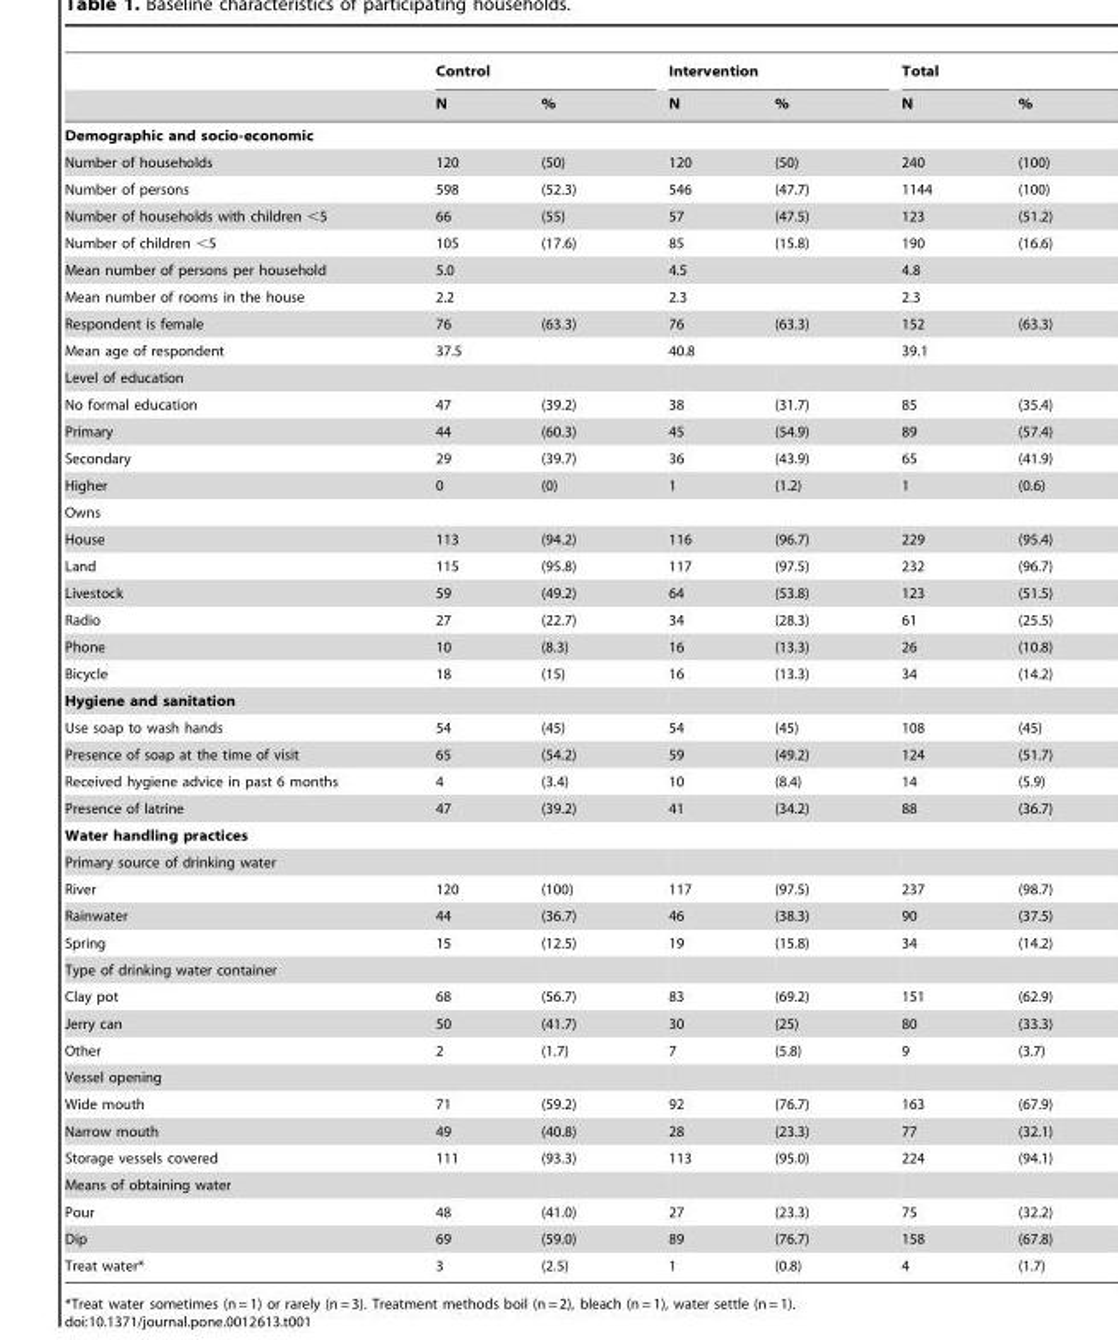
<table><thead><tr><td rowspan="2"></td><td colspan="2">Control</td><td colspan="2">Intervention</td><td colspan="2">Total</td></tr><tr><td>N</td><td>%</td><td>N</td><td>%</td><td>N</td><td>%</td></tr></thead><tbody><tr><td colspan="7">Demographic and socio-economic</td></tr><tr><td>Number of households</td><td>120</td><td>(50)</td><td>120</td><td>(50)</td><td>240</td><td>(100)</td></tr><tr><td>Number of persons</td><td>598</td><td>(52.3)</td><td>546</td><td>(47.7)</td><td>1144</td><td>(100)</td></tr><tr><td>Number of households with children &lt;5</td><td>66</td><td>(55)</td><td>57</td><td>(47.5)</td><td>123</td><td>(51.2)</td></tr><tr><td>Number of children &lt;5</td><td>105</td><td>(17.6)</td><td>85</td><td>(15.8)</td><td>190</td><td>(16.6)</td></tr><tr><td>Mean number of persons per household</td><td colspan="2">5.0</td><td colspan="2">4.5</td><td colspan="2">4.8</td></tr><tr><td>Mean number of rooms in the house</td><td colspan="2">2.2</td><td colspan="2">2.3</td><td colspan="2">2.3</td></tr><tr><td>Respondent is female</td><td>76</td><td>(63.3)</td><td>76</td><td>(63.3)</td><td>152</td><td>(63.3)</td></tr><tr><td>Mean age of respondent</td><td colspan="2">37.5</td><td colspan="2">40.8</td><td colspan="2">39.1</td></tr><tr><td colspan="7">Level of education</td></tr><tr><td>No formal education</td><td>47</td><td>(39.2)</td><td>38</td><td>(31.7)</td><td>85</td><td>(35.4)</td></tr><tr><td>Primary</td><td>44</td><td>(60.3)</td><td>45</td><td>(54.9)</td><td>89</td><td>(57.4)</td></tr><tr><td>Secondary</td><td>29</td><td>(39.7)</td><td>36</td><td>(43.9)</td><td>65</td><td>(41.9)</td></tr><tr><td>Higher</td><td>0</td><td>(0)</td><td>1</td><td>(1.2)</td><td>1</td><td>(0.6)</td></tr><tr><td colspan="7">Owns</td></tr><tr><td>House</td><td>113</td><td>(94.2)</td><td>116</td><td>(96.7)</td><td>229</td><td>(95.4)</td></tr><tr><td>Land</td><td>115</td><td>(95.8)</td><td>117</td><td>(97.5)</td><td>232</td><td>(96.7)</td></tr><tr><td>Livestock</td><td>59</td><td>(49.2)</td><td>64</td><td>(53.8)</td><td>123</td><td>(51.5)</td></tr><tr><td>Radio</td><td>27</td><td>(22.7)</td><td>34</td><td>(28.3)</td><td>61</td><td>(25.5)</td></tr><tr><td>Phone</td><td>10</td><td>(8.3)</td><td>16</td><td>(13.3)</td><td>26</td><td>(10.8)</td></tr><tr><td>Bicycle</td><td>18</td><td>(15)</td><td>16</td><td>(13.3)</td><td>34</td><td>(14.2)</td></tr><tr><td colspan="7">Hygiene and sanitation</td></tr><tr><td>Use soap to wash hands</td><td>54</td><td>(45)</td><td>54</td><td>(45)</td><td>108</td><td>(45)</td></tr><tr><td>Presence of soap at the time of visit</td><td>65</td><td>(54.2)</td><td>59</td><td>(49.2)</td><td>124</td><td>(51.7)</td></tr><tr><td>Received hygiene advice in past 6 months</td><td>4</td><td>(3.4)</td><td>10</td><td>(8.4)</td><td>14</td><td>(5.9)</td></tr><tr><td>Presence of latrine</td><td>47</td><td>(39.2)</td><td>41</td><td>(34.2)</td><td>88</td><td>(36.7)</td></tr><tr><td colspan="7">Water handling practices</td></tr><tr><td colspan="7">Primary source of drinking water</td></tr><tr><td>River</td><td>120</td><td>(100)</td><td>117</td><td>(97.5)</td><td>237</td><td>(98.7)</td></tr><tr><td>Rainwater</td><td>44</td><td>(36.7)</td><td>46</td><td>(38.3)</td><td>90</td><td>(37.5)</td></tr><tr><td>Spring</td><td>15</td><td>(12.5)</td><td>19</td><td>(15.8)</td><td>34</td><td>(14.2)</td></tr><tr><td colspan="7">Type of drinking water container</td></tr><tr><td>Clay pot</td><td>68</td><td>(56.7)</td><td>83</td><td>(69.2)</td><td>151</td><td>(62.9)</td></tr><tr><td>Jerry can</td><td>50</td><td>(41.7)</td><td>30</td><td>(25)</td><td>80</td><td>(33.3)</td></tr><tr><td>Other</td><td>2</td><td>(1.7)</td><td>7</td><td>(5.8)</td><td>9</td><td>(3.7)</td></tr><tr><td colspan="7">Vessel opening</td></tr><tr><td>Wide mouth</td><td>71</td><td>(59.2)</td><td>92</td><td>(76.7)</td><td>163</td><td>(67.9)</td></tr><tr><td>Narrow mouth</td><td>49</td><td>(40.8)</td><td>28</td><td>(23.3)</td><td>77</td><td>(32.1)</td></tr><tr><td>Storage vessels covered</td><td>111</td><td>(93.3)</td><td>113</td><td>(95.0)</td><td>224</td><td>(94.1)</td></tr><tr><td colspan="7">Means of obtaining water</td></tr><tr><td>Pour</td><td>48</td><td>(41.0)</td><td>27</td><td>(23.3)</td><td>75</td><td>(32.2)</td></tr><tr><td>Dip</td><td>69</td><td>(59.0)</td><td>89</td><td>(76.7)</td><td>158</td><td>(67.8)</td></tr><tr><td>Treat water*</td><td>3</td><td>(2.5)</td><td>1</td><td>(0.8)</td><td>4</td><td>(1.7)</td></tr></tbody></table>